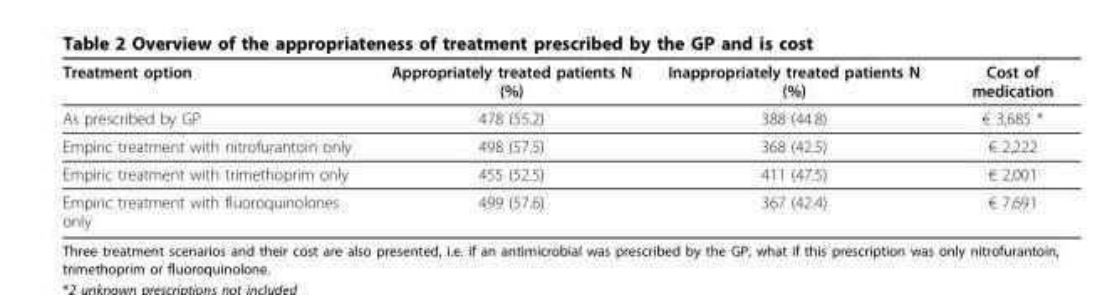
<table><thead><tr><td>Treatment option</td><td>Appropriately treated patients N (%)</td><td>Inappropriately treated patients N (%)</td><td>Cost of medication</td></tr></thead><tbody><tr><td>As prescribed by GP</td><td>478 (55.2)</td><td>388 (44.8)</td><td>€ 3,685 *</td></tr><tr><td>Empiric treatment with nitrofurantoin only</td><td>498 (57.5)</td><td>368 (42.5)</td><td>€ 2,222</td></tr><tr><td>Empiric treatment with trimethoprim only</td><td>455 (52.5)</td><td>411 (47.5)</td><td>€ 2,001</td></tr><tr><td>Empiric treatment with fluoroquinolones only</td><td>499 (57.6)</td><td>367 (42.4)</td><td>€ 7,691</td></tr></tbody></table>